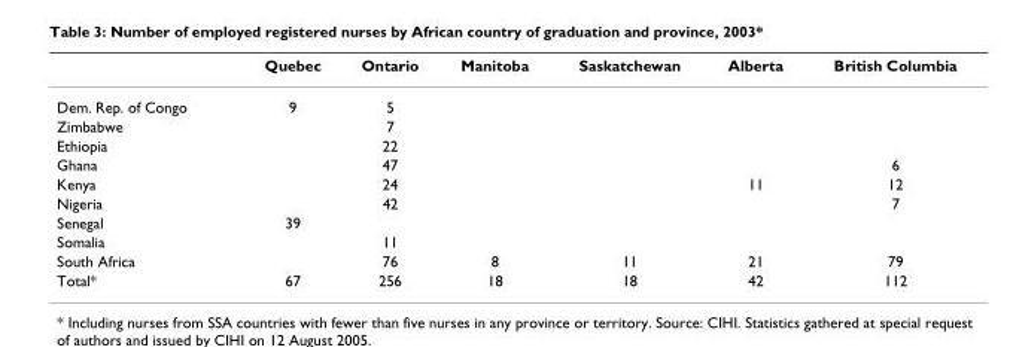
<table><thead><tr><td></td><td>Quebec</td><td>Ontario</td><td>Manitoba</td><td>Saskatchewan</td><td>Alberta</td><td>British Columbia</td></tr></thead><tbody><tr><td>Dem. Rep. of Congo</td><td>9</td><td>5</td><td></td><td></td><td></td><td></td></tr><tr><td>Zimbabwe</td><td></td><td>7</td><td></td><td></td><td></td><td></td></tr><tr><td>Ethiopia</td><td></td><td>22</td><td></td><td></td><td></td><td></td></tr><tr><td>Ghana</td><td></td><td>47</td><td></td><td></td><td></td><td>6</td></tr><tr><td>Kenya</td><td></td><td>24</td><td></td><td></td><td>11</td><td>12</td></tr><tr><td>Nigeria</td><td></td><td>42</td><td></td><td></td><td></td><td>7</td></tr><tr><td>Senegal</td><td>39</td><td></td><td></td><td></td><td></td><td></td></tr><tr><td>Somalia</td><td></td><td>11</td><td></td><td></td><td></td><td></td></tr><tr><td>South Africa</td><td></td><td>76</td><td>8</td><td>11</td><td>21</td><td>79</td></tr><tr><td>Total*</td><td>67</td><td>256</td><td>18</td><td>18</td><td>42</td><td>112</td></tr></tbody></table>